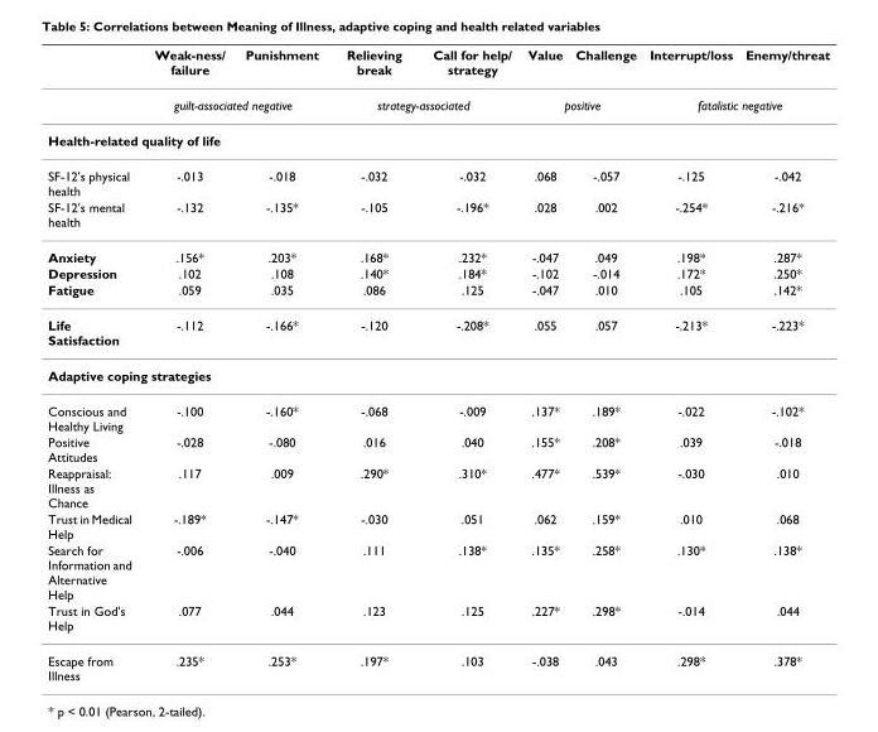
<table><thead><tr><td></td><td>Weak-ness/ failure</td><td>Punishment</td><td>Relieving break</td><td>Call for help/ strategy</td><td>Value</td><td>Challenge</td><td>Interrupt/loss</td><td>Enemy/threat</td></tr></thead><tbody><tr><td></td><td colspan="2">guilt-associated negative</td><td colspan="2">strategy-associated</td><td colspan="2">positive</td><td colspan="2">fatalistic negative</td></tr><tr><td colspan="9">Health-related quality of life</td></tr><tr><td>SF-12&#x27;s physical health</td><td>-.013</td><td>-.018</td><td>-.032</td><td>-.032</td><td>.068</td><td>-.057</td><td>-.125</td><td>-.042</td></tr><tr><td>SF-12&#x27;s mental health</td><td>-.132</td><td>-.135*</td><td>-.105</td><td>-.196*</td><td>.028</td><td>.002</td><td>-.254*</td><td>-.216*</td></tr><tr><td>Anxiety</td><td>.156*</td><td>.203*</td><td>.168*</td><td>.232*</td><td>-.047</td><td>.049</td><td>.198*</td><td>.287*</td></tr><tr><td>Depression</td><td>.102</td><td>.108</td><td>.140*</td><td>.184*</td><td>-.102</td><td>-.014</td><td>.172*</td><td>.250*</td></tr><tr><td>Fatigue</td><td>.059</td><td>.035</td><td>.086</td><td>.125</td><td>-.047</td><td>.010</td><td>.105</td><td>.142*</td></tr><tr><td>Life Satisfaction</td><td>-.112</td><td>-.166*</td><td>-.120</td><td>-.208*</td><td>.055</td><td>.057</td><td>-.213*</td><td>-.223*</td></tr><tr><td colspan="9">Adaptive coping strategies</td></tr><tr><td>Conscious and Healthy Living</td><td>-.100</td><td>-.160*</td><td>-.068</td><td>-.009</td><td>.137*</td><td>.189*</td><td>-.022</td><td>-.102*</td></tr><tr><td>Positive Attitudes</td><td>-.028</td><td>-.080</td><td>.016</td><td>.040</td><td>.155*</td><td>.208*</td><td>.039</td><td>-.018</td></tr><tr><td>Reappraisal: Illness as Chance</td><td>.117</td><td>.009</td><td>.290*</td><td>.310*</td><td>.477*</td><td>.539*</td><td>-.030</td><td>.010</td></tr><tr><td>Trust in Medical Help</td><td>-.189*</td><td>-.147*</td><td>-.030</td><td>.051</td><td>.062</td><td>.159*</td><td>.010</td><td>.068</td></tr><tr><td>Search for Information and Alternative Help</td><td>-.006</td><td>-.040</td><td>.111</td><td>.138*</td><td>.135*</td><td>.258*</td><td>.130*</td><td>.138*</td></tr><tr><td>Trust in God&#x27;s Help</td><td>.077</td><td>.044</td><td>.123</td><td>.125</td><td>.227*</td><td>.298*</td><td>-.014</td><td>.044</td></tr><tr><td>Escape from Illness</td><td>.235*</td><td>.253*</td><td>.197*</td><td>.103</td><td>-.038</td><td>.043</td><td>.298*</td><td>.378*</td></tr></tbody></table>